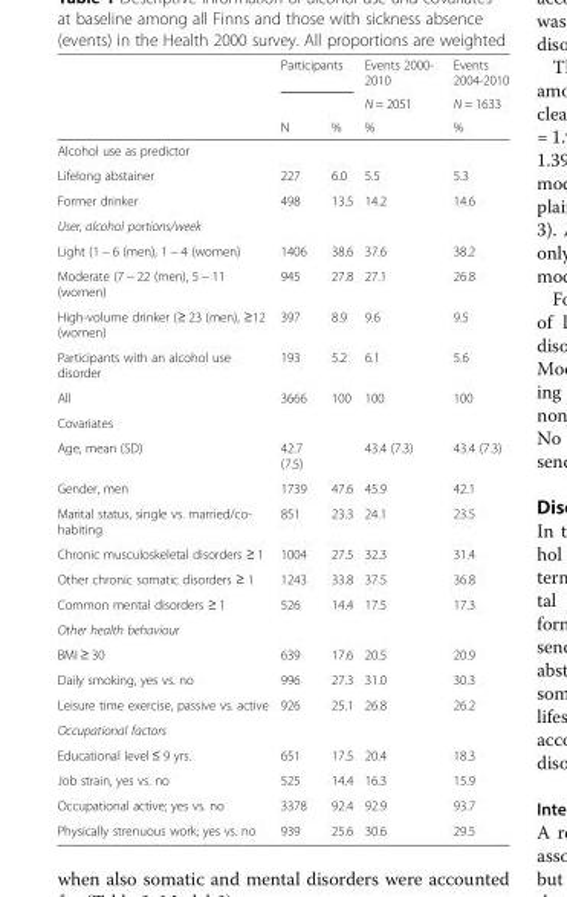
<table><thead><tr><td rowspan="3"></td><td colspan="2">Participants</td><td rowspan="3">Events 2000- 2010 N = 2051 %</td><td rowspan="3">Events 2004-2010 N = 1633 %</td></tr><tr><td rowspan="2">N</td><td rowspan="2">%</td></tr><tr></tr></thead><tbody><tr><td colspan="5">Alcohol use as predictor</td></tr><tr><td>Lifelong abstainer</td><td>227</td><td>6.0</td><td>5.5</td><td>5.3</td></tr><tr><td>Former drinker</td><td>498</td><td>13.5</td><td>14.2</td><td>14.6</td></tr><tr><td colspan="5">User, alcohol portions/week</td></tr><tr><td>Light (1 − 6 (men), 1 − 4 (women)</td><td>1406</td><td>38.6</td><td>37.6</td><td>38.2</td></tr><tr><td>Moderate (7 − 22 (men), 5 − 11 (women)</td><td>945</td><td>27.8</td><td>27.1</td><td>26.8</td></tr><tr><td>High-volume drinker (≥ 23 (men), ≥12 (women)</td><td>397</td><td>8.9</td><td>9.6</td><td>9.5</td></tr><tr><td>Participants with an alcohol use disorder</td><td>193</td><td>5.2</td><td>6.1</td><td>5.6</td></tr><tr><td>All</td><td>3666</td><td>100</td><td>100</td><td>100</td></tr><tr><td colspan="5">Covariates</td></tr><tr><td>Age, mean (SD)</td><td>42.7 (7.5)</td><td></td><td>43.4 (7.3)</td><td>43.4 (7.3)</td></tr><tr><td>Gender, men</td><td>1739</td><td>47.6</td><td>45.9</td><td>42.1</td></tr><tr><td>Marital status, single vs. married/co- habiting</td><td>851</td><td>23.3</td><td>24.1</td><td>23.5</td></tr><tr><td>Chronic musculoskeletal disorders ≥ 1</td><td>1004</td><td>27.5</td><td>32.3</td><td>31.4</td></tr><tr><td>Other chronic somatic disorders ≥ 1</td><td>1243</td><td>33.8</td><td>37.5</td><td>36.8</td></tr><tr><td>Common mental disorders ≥ 1</td><td>526</td><td>14.4</td><td>17.5</td><td>17.3</td></tr><tr><td colspan="5">Other health behaviour</td></tr><tr><td>BMI ≥ 30</td><td>639</td><td>17.6</td><td>20.5</td><td>20.9</td></tr><tr><td>Daily smoking, yes vs. no</td><td>996</td><td>27.3</td><td>31.0</td><td>30.3</td></tr><tr><td>Leisure time exercise, passive vs. active</td><td>926</td><td>25.1</td><td>26.8</td><td>26.2</td></tr><tr><td colspan="5">Occupational factors</td></tr><tr><td>Educational level ≤ 9 yrs.</td><td>651</td><td>17.5</td><td>20.4</td><td>18.3</td></tr><tr><td>Job strain, yes vs. no</td><td>525</td><td>14.4</td><td>16.3</td><td>15.9</td></tr><tr><td>Occupational active; yes vs. no</td><td>3378</td><td>92.4</td><td>92.9</td><td>93.7</td></tr><tr><td>Physically strenuous work; yes vs. no</td><td>939</td><td>25.6</td><td>30.6</td><td>29.5</td></tr></tbody></table>